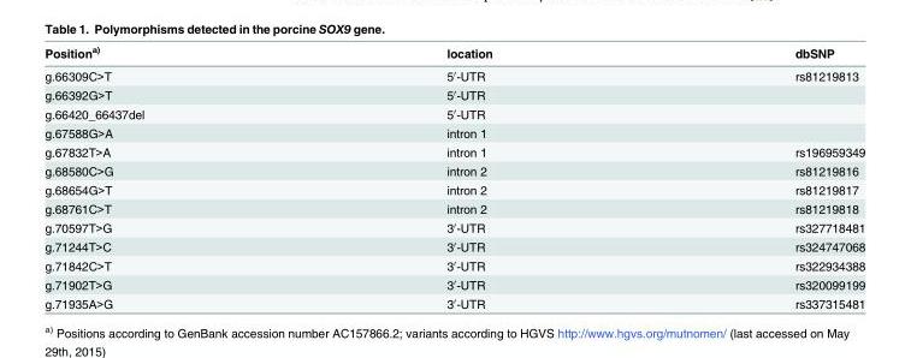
<table><thead><tr><td>Position<sup>a)</sup></td><td>location</td><td>dbSNP</td></tr></thead><tbody><tr><td>g.66309C&gt;T</td><td>5′-UTR</td><td>rs81219813</td></tr><tr><td>g.66392G&gt;T</td><td>5′-UTR</td><td></td></tr><tr><td>g.66420_66437del</td><td>5′-UTR</td><td></td></tr><tr><td>g.67588G&gt;A</td><td>intron 1</td><td></td></tr><tr><td>g.67832T&gt;A</td><td>intron 1</td><td>rs196959349</td></tr><tr><td>g.68580C&gt;G</td><td>intron 2</td><td>rs81219816</td></tr><tr><td>g.68654G&gt;T</td><td>intron 2</td><td>rs81219817</td></tr><tr><td>g.68761C&gt;T</td><td>intron 2</td><td>rs81219818</td></tr><tr><td>g.70597T&gt;G</td><td>3′-UTR</td><td>rs327718481</td></tr><tr><td>g.71244T&gt;C</td><td>3′-UTR</td><td>rs324747068</td></tr><tr><td>g.71842C&gt;T</td><td>3′-UTR</td><td>rs322934388</td></tr><tr><td>g.71902T&gt;G</td><td>3′-UTR</td><td>rs320099199</td></tr><tr><td>g.71935A&gt;G</td><td>3′-UTR</td><td>rs337315481</td></tr></tbody></table>